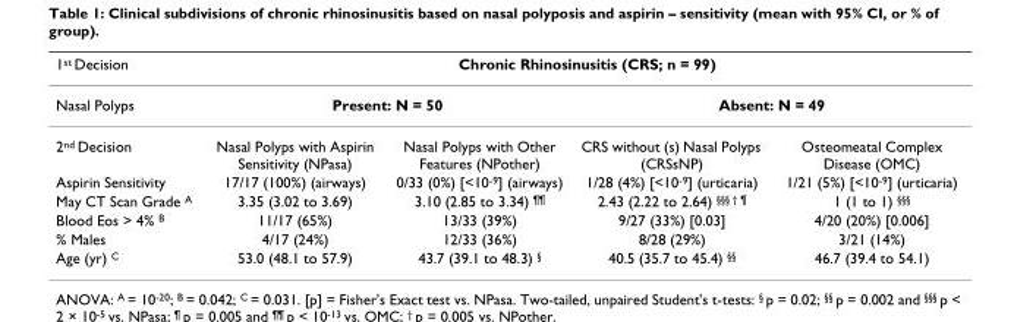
<table><thead><tr><td rowspan="3">1st Decision Nasal Polyps 2nd Decision</td><td colspan="4">Chronic Rhinosinusitis (CRS; n = 99)</td></tr><tr><td colspan="2">Present: N = 50</td><td colspan="2">Absent: N = 49</td></tr><tr><td>Nasal Polyps with Aspirin Sensitivity (NPasa)</td><td>Nasal Polyps with Other Features (NPother)</td><td>CRS without (s) Nasal Polyps (CRSsNP)</td><td>Osteomeatal Complex Disease (OMC)</td></tr></thead><tbody><tr><td>Aspirin Sensitivity</td><td>17/17 (100%) (airways)</td><td>0/33 (0%) [&lt;10<sup>-9</sup>] (airways)</td><td>1/28 (4%) [&lt;10<sup>-9</sup>] (urticaria)</td><td>1/21 (5%) [&lt;10<sup>-9</sup>] (urticaria)</td></tr><tr><td>May CT Scan Grade <sup>A</sup></td><td>3.35 (3.02 to 3.69)</td><td>3.10 (2.85 to 3.34) <sup>¶¶</sup></td><td>2.43 (2.22 to 2.64) <sup>§§§ † ¶</sup></td><td>1 (1 to 1) <sup>§§§</sup></td></tr><tr><td>Blood Eos &gt; 4% <sup>B</sup></td><td>11/17 (65%)</td><td>13/33 (39%)</td><td>9/27 (33%) [0.03]</td><td>4/20 (20%) [0.006]</td></tr><tr><td>% Males</td><td>4/17 (24%)</td><td>12/33 (36%)</td><td>8/28 (29%)</td><td>3/21 (14%)</td></tr><tr><td>Age (yr) <sup>C</sup></td><td>53.0 (48.1 to 57.9)</td><td>43.7 (39.1 to 48.3) <sup>§</sup></td><td>40.5 (35.7 to 45.4) <sup>§§</sup></td><td>46.7 (39.4 to 54.1)</td></tr></tbody></table>